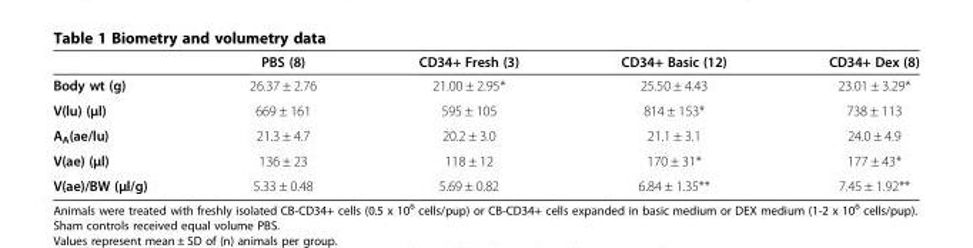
<table><thead><tr><td></td><td>PBS (8)</td><td>CD34+ Fresh (3)</td><td>CD34+ Basic (12)</td><td>CD34+ Dex (8)</td></tr></thead><tbody><tr><td>Body wt (g)</td><td>26.37 ± 2.76</td><td>21.00 ± 2.95*</td><td>25.50 ± 4.43</td><td>23.01 ± 3.29*</td></tr><tr><td>V(lu) (μl)</td><td>669 ± 161</td><td>595 ± 105</td><td>814 ± 153*</td><td>738 ± 113</td></tr><tr><td>A<sub>A</sub>(ae/lu)</td><td>21.3 ± 4.7</td><td>20.2 ± 3.0</td><td>21.1 ± 3.1</td><td>24.0 ± 4.9</td></tr><tr><td>V(ae) (μl)</td><td>136 ± 23</td><td>118 ± 12</td><td>170 ± 31*</td><td>177 ± 43*</td></tr><tr><td>V(ae)/BW (μl/g)</td><td>5.33 ± 0.48</td><td>5.69 ± 0.82</td><td>6.84 ± 1.35**</td><td>7.45 ± 1.92**</td></tr></tbody></table>